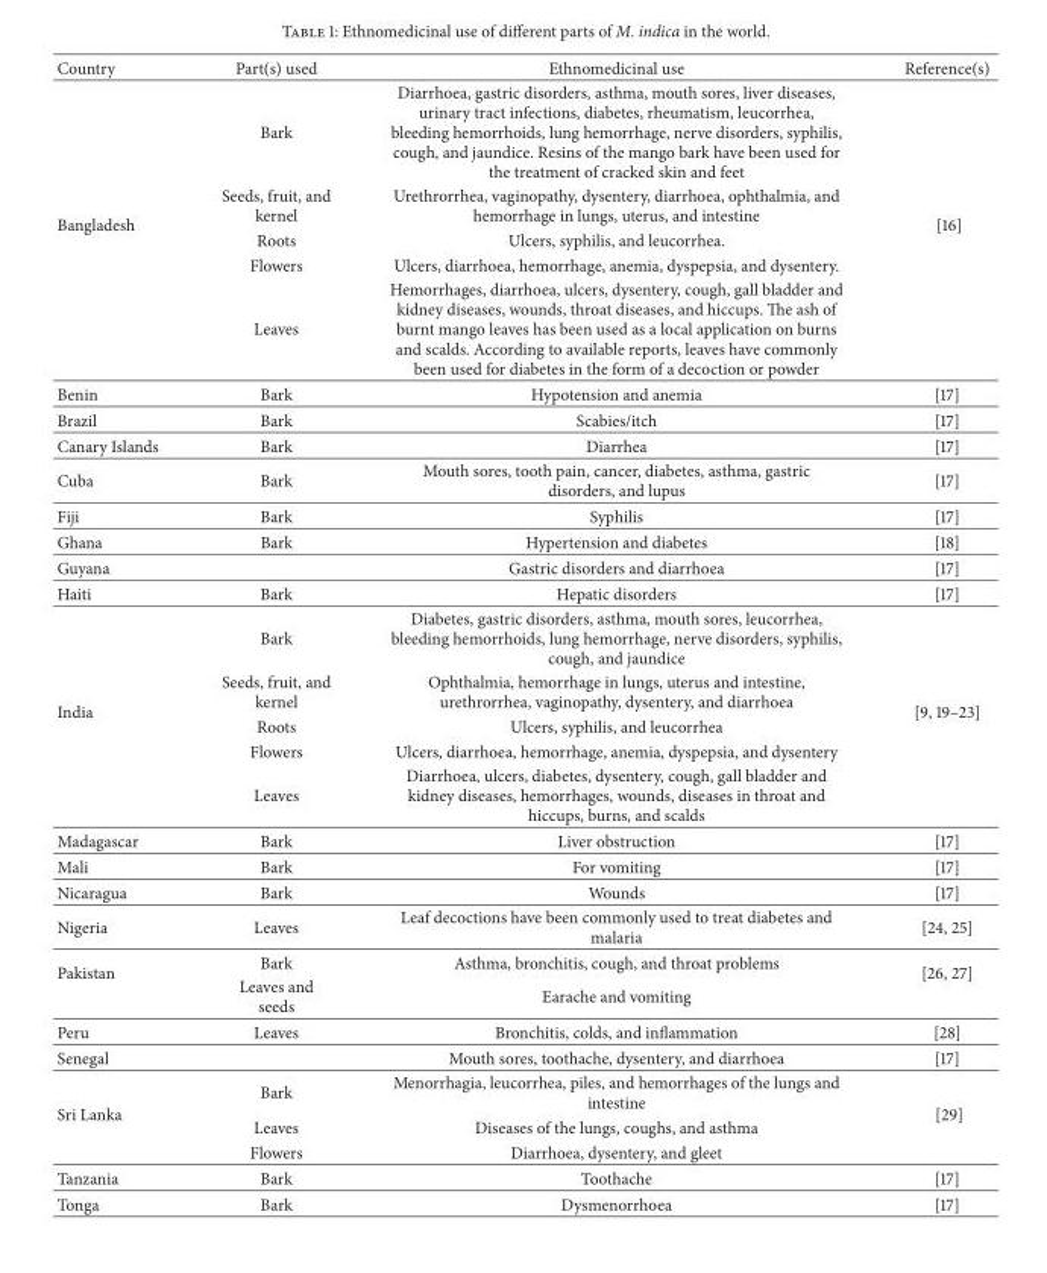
<table><thead><tr><td>Country</td><td>Part(s) used</td><td>Ethnomedicinal use</td><td>Reference(s)</td></tr></thead><tbody><tr><td rowspan="5">Bangladesh</td><td>Bark</td><td>Diarrhoea, gastric disorders, asthma, mouth sores, liver diseases, urinary tract infections, diabetes, rheumatism, leucorrhea, bleeding hemorrhoids, lung hemorrhage, nerve disorders, syphilis, cough, and jaundice. Resins of the mango bark have been used for the treatment of cracked skin and feet</td><td rowspan="5">[16]</td></tr><tr><td>Seeds, fruit, and kernel</td><td>Urethrorrhea, vaginopathy, dysentery, diarrhoea, ophthalmia, and hemorrhage in lungs, uterus, and intestine</td></tr><tr><td>Roots</td><td>Ulcers, syphilis, and leucorrhea.</td></tr><tr><td>Flowers</td><td>Ulcers, diarrhoea, hemorrhage, anemia, dyspepsia, and dysentery.</td></tr><tr><td>Leaves</td><td>Hemorrhages, diarrhoea, ulcers, dysentery, cough, gall bladder and kidney diseases, wounds, throat diseases, and hiccups. The ash of burnt mango leaves has been used as a local application on burns and scalds. According to available reports, leaves have commonly been used for diabetes in the form of a decoction or powder</td></tr><tr><td>Benin</td><td>Bark</td><td>Hypotension and anemia</td><td>[17]</td></tr><tr><td>Brazil</td><td>Bark</td><td>Scabies/itch</td><td>[17]</td></tr><tr><td>Canary Islands</td><td>Bark</td><td>Diarrhea</td><td>[17]</td></tr><tr><td>Cuba</td><td>Bark</td><td>Mouth sores, tooth pain, cancer, diabetes, asthma, gastric disorders, and lupus</td><td>[17]</td></tr><tr><td>Fiji</td><td>Bark</td><td>Syphilis</td><td>[17]</td></tr><tr><td>Ghana</td><td>Bark</td><td>Hypertension and diabetes</td><td>[18]</td></tr><tr><td>Guyana</td><td></td><td>Gastric disorders and diarrhoea</td><td>[17]</td></tr><tr><td>Haiti</td><td>Bark</td><td>Hepatic disorders</td><td>[17]</td></tr><tr><td rowspan="5">India</td><td>Bark</td><td>Diabetes, gastric disorders, asthma, mouth sores, leucorrhea, bleeding hemorrhoids, lung hemorrhage, nerve disorders, syphilis, cough, and jaundice</td><td rowspan="5">[9, 19–23]</td></tr><tr><td>Seeds, fruit, and kernel</td><td>Ophthalmia, hemorrhage in lungs, uterus and intestine, urethrorrhea, vaginopathy, dysentery, and diarrhoea</td></tr><tr><td>Roots</td><td>Ulcers, syphilis, and leucorrhea</td></tr><tr><td>Flowers</td><td>Ulcers, diarrhoea, hemorrhage, anemia, dyspepsia, and dysentery</td></tr><tr><td>Leaves</td><td>Diarrhoea, ulcers, diabetes, dysentery, cough, gall bladder and kidney diseases, hemorrhages, wounds, diseases in throat and hiccups, burns, and scalds</td></tr><tr><td>Madagascar</td><td>Bark</td><td>Liver obstruction</td><td>[17]</td></tr><tr><td>Mali</td><td>Bark</td><td>For vomiting</td><td>[17]</td></tr><tr><td>Nicaragua</td><td>Bark</td><td>Wounds</td><td>[17]</td></tr><tr><td>Nigeria</td><td>Leaves</td><td>Leaf decoctions have been commonly used to treat diabetes and malaria</td><td>[24, 25]</td></tr><tr><td rowspan="2">Pakistan</td><td>Bark</td><td>Asthma, bronchitis, cough, and throat problems</td><td rowspan="2">[26, 27]</td></tr><tr><td>Leaves and seeds</td><td>Earache and vomiting</td></tr><tr><td>Peru</td><td>Leaves</td><td>Bronchitis, colds, and inflammation</td><td>[28]</td></tr><tr><td>Senegal</td><td></td><td>Mouth sores, toothache, dysentery, and diarrhoea</td><td>[17]</td></tr><tr><td rowspan="3">Sri Lanka</td><td>Bark</td><td>Menorrhagia, leucorrhea, piles, and hemorrhages of the lungs and intestine</td><td rowspan="3">[29]</td></tr><tr><td>Leaves</td><td>Diseases of the lungs, coughs, and asthma</td></tr><tr><td>Flowers</td><td>Diarrhoea, dysentery, and gleet</td></tr><tr><td>Tanzania</td><td>Bark</td><td>Toothache</td><td>[17]</td></tr><tr><td>Tonga</td><td>Bark</td><td>Dysmenorrhoea</td><td>[17]</td></tr></tbody></table>